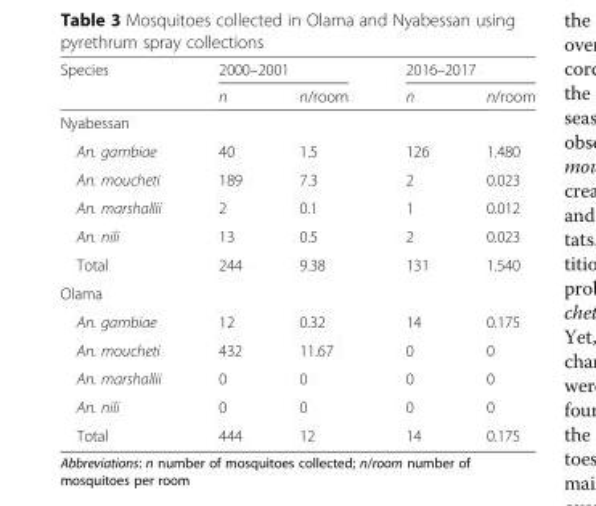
<table><thead><tr><td rowspan="2">Species</td><td colspan="2">2000–2001</td><td colspan="2">2016–2017</td></tr><tr><td>n</td><td>n/room</td><td>n</td><td>n/room</td></tr></thead><tbody><tr><td colspan="5">Nyabessan</td></tr><tr><td>An. gambiae</td><td>40</td><td>1.5</td><td>126</td><td>1.480</td></tr><tr><td>An. moucheti</td><td>189</td><td>7.3</td><td>2</td><td>0.023</td></tr><tr><td>An. marshallii</td><td>2</td><td>0.1</td><td>1</td><td>0.012</td></tr><tr><td>An. nili</td><td>13</td><td>0.5</td><td>2</td><td>0.023</td></tr><tr><td>Total</td><td>244</td><td>9.38</td><td>131</td><td>1.540</td></tr><tr><td colspan="5">Olama</td></tr><tr><td>An. gambiae</td><td>12</td><td>0.32</td><td>14</td><td>0.175</td></tr><tr><td>An. moucheti</td><td>432</td><td>11.67</td><td>0</td><td>0</td></tr><tr><td>An. marshallii</td><td>0</td><td>0</td><td>0</td><td>0</td></tr><tr><td>An. nili</td><td>0</td><td>0</td><td>0</td><td>0</td></tr><tr><td>Total</td><td>444</td><td>12</td><td>14</td><td>0.175</td></tr></tbody></table>